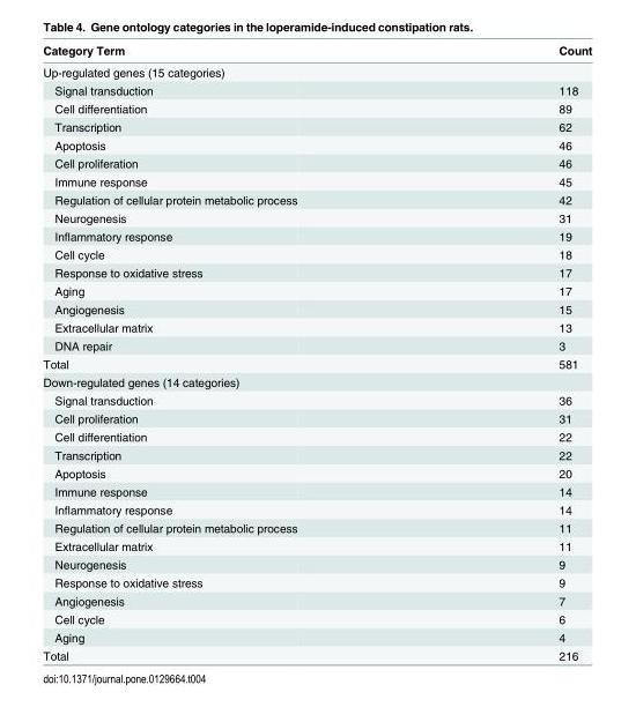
<table><thead><tr><td>Category Term</td><td>Count</td></tr></thead><tbody><tr><td colspan="2">Up-regulated genes (15 categories)</td></tr><tr><td>Signal transduction</td><td>118</td></tr><tr><td>Cell differentiation</td><td>89</td></tr><tr><td>Transcription</td><td>62</td></tr><tr><td>Apoptosis</td><td>46</td></tr><tr><td>Cell proliferation</td><td>46</td></tr><tr><td>Immune response</td><td>45</td></tr><tr><td>Regulation of cellular protein metabolic process</td><td>42</td></tr><tr><td>Neurogenesis</td><td>31</td></tr><tr><td>Inflammatory response</td><td>19</td></tr><tr><td>Cell cycle</td><td>18</td></tr><tr><td>Response to oxidative stress</td><td>17</td></tr><tr><td>Aging</td><td>17</td></tr><tr><td>Angiogenesis</td><td>15</td></tr><tr><td>Extracellular matrix</td><td>13</td></tr><tr><td>DNA repair</td><td>3</td></tr><tr><td>Total</td><td>581</td></tr><tr><td colspan="2">Down-regulated genes (14 categories)</td></tr><tr><td>Signal transduction</td><td>36</td></tr><tr><td>Cell proliferation</td><td>31</td></tr><tr><td>Cell differentiation</td><td>22</td></tr><tr><td>Transcription</td><td>22</td></tr><tr><td>Apoptosis</td><td>20</td></tr><tr><td>Immune response</td><td>14</td></tr><tr><td>Inflammatory response</td><td>14</td></tr><tr><td>Regulation of cellular protein metabolic process</td><td>11</td></tr><tr><td>Extracellular matrix</td><td>11</td></tr><tr><td>Neurogenesis</td><td>9</td></tr><tr><td>Response to oxidative stress</td><td>9</td></tr><tr><td>Angiogenesis</td><td>7</td></tr><tr><td>Cell cycle</td><td>6</td></tr><tr><td>Aging</td><td>4</td></tr><tr><td>Total</td><td>216</td></tr></tbody></table>